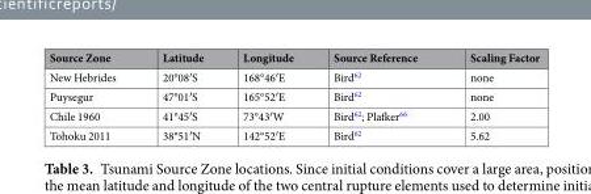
<table><thead><tr><td>Source Zone</td><td>Latitude</td><td>Longitude</td><td>Source Reference</td><td>Scaling Factor</td></tr></thead><tbody><tr><td>New Hebrides</td><td>20°08′S</td><td>168°46′E</td><td>Bird<sup>62</sup></td><td>none</td></tr><tr><td>Puysegur</td><td>47°01′S</td><td>165°52′E</td><td>Bird<sup>62</sup></td><td>none</td></tr><tr><td>Chile 1960</td><td>41°45′S</td><td>73°43′W</td><td>Bird<sup>62</sup>; Plafker<sup>66</sup></td><td>2.00</td></tr><tr><td>Tohoku 2011</td><td>38°51′N</td><td>142°52′E</td><td>Bird<sup>62</sup></td><td>5.62</td></tr></tbody></table>